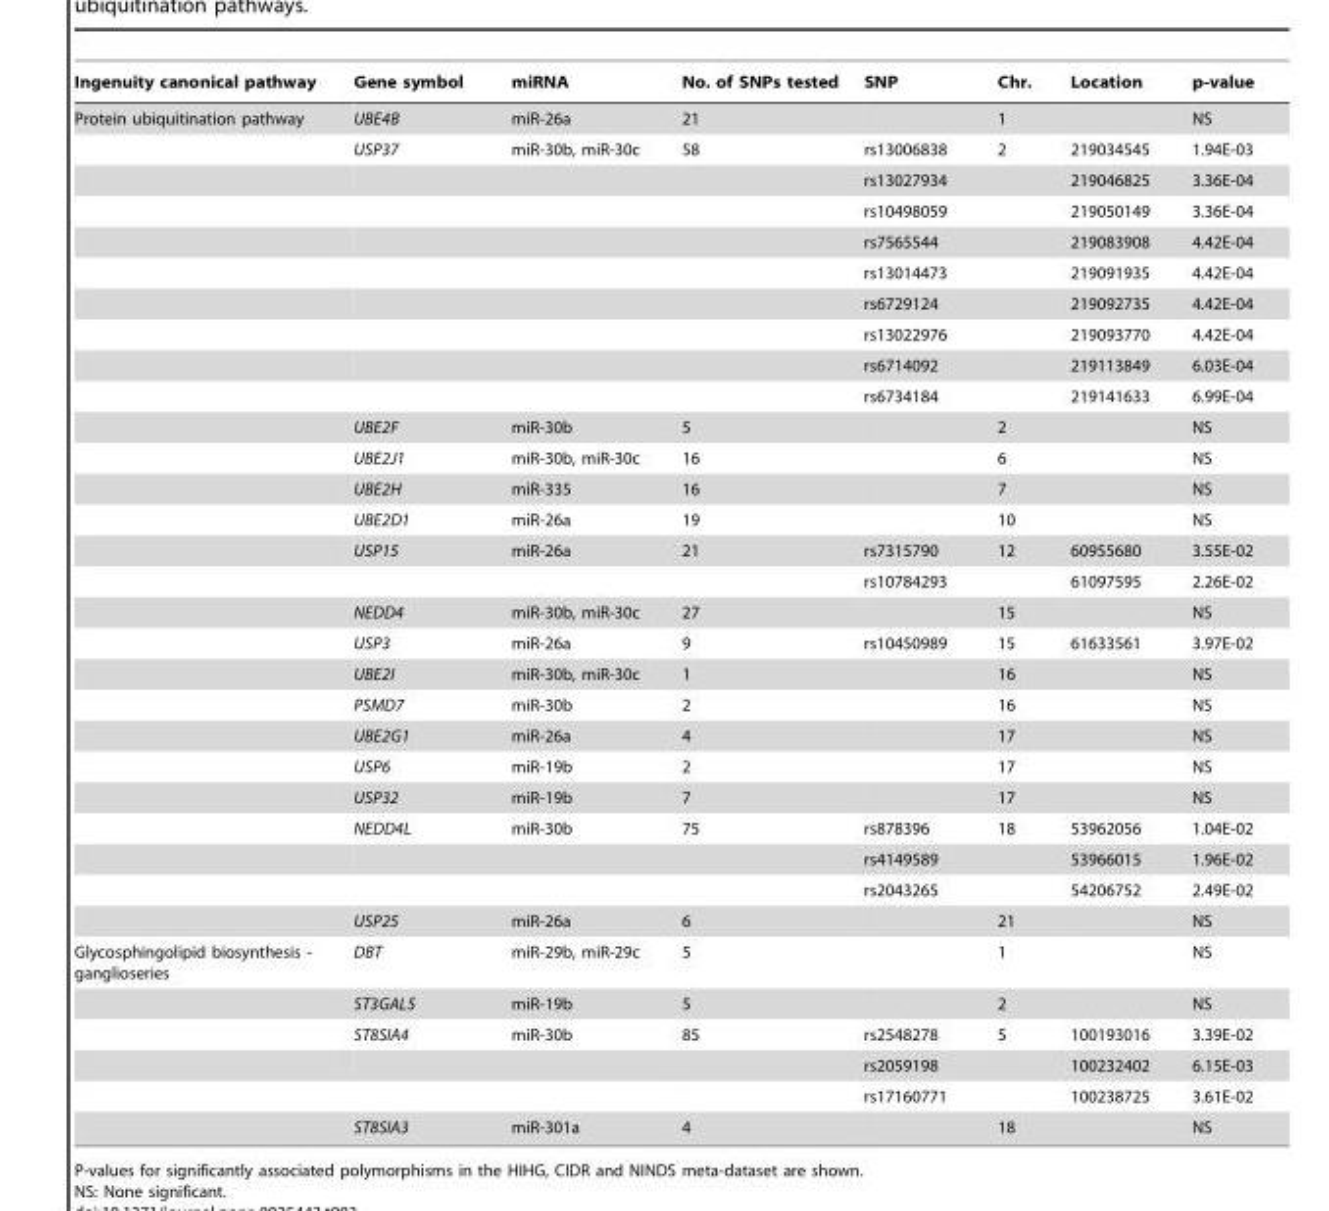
<table><thead><tr><td>Ingenuity canonical pathway</td><td>Gene symbol</td><td>miRNA</td><td>No. of SNPs tested</td><td>SNP</td><td>Chr.</td><td>Location</td><td>p-value</td></tr></thead><tbody><tr><td rowspan="27">Protein ubiquitination pathway</td><td>UBE4B</td><td>miR-26a</td><td>21</td><td></td><td>1</td><td></td><td>NS</td></tr><tr><td>USP37</td><td>miR-30b, miR-30c</td><td>58</td><td>rs13006838</td><td>2</td><td>219034545</td><td>1.94E-03</td></tr><tr><td></td><td></td><td></td><td>rs13027934</td><td></td><td>219046825</td><td>3.36E-04</td></tr><tr><td></td><td></td><td></td><td>rs10498059</td><td></td><td>219050149</td><td>3.36E-04</td></tr><tr><td></td><td></td><td></td><td>rs7565544</td><td></td><td>219083908</td><td>4.42E-04</td></tr><tr><td></td><td></td><td></td><td>rs13014473</td><td></td><td>219091935</td><td>4.42E-04</td></tr><tr><td></td><td></td><td></td><td>rs6729124</td><td></td><td>219092735</td><td>4.42E-04</td></tr><tr><td></td><td></td><td></td><td>rs13022976</td><td></td><td>219093770</td><td>4.42E-04</td></tr><tr><td></td><td></td><td></td><td>rs6714092</td><td></td><td>219113849</td><td>6.03E-04</td></tr><tr><td></td><td></td><td></td><td>rs6734184</td><td></td><td>219141633</td><td>6.99E-04</td></tr><tr><td>UBE2F</td><td>miR-30b</td><td>5</td><td></td><td>2</td><td></td><td>NS</td></tr><tr><td>UBE2J1</td><td>miR-30b, miR-30c</td><td>16</td><td></td><td>6</td><td></td><td>NS</td></tr><tr><td>UBE2H</td><td>miR-335</td><td>16</td><td></td><td>7</td><td></td><td>NS</td></tr><tr><td>UBE2D1</td><td>miR-26a</td><td>19</td><td></td><td>10</td><td></td><td>NS</td></tr><tr><td>USP15</td><td>miR-26a</td><td>21</td><td>rs7315790</td><td>12</td><td>60955680</td><td>3.55E-02</td></tr><tr><td></td><td></td><td></td><td>rs10784293</td><td></td><td>61097595</td><td>2.26E-02</td></tr><tr><td>NEDD4</td><td>miR-30b, miR-30c</td><td>27</td><td></td><td>15</td><td></td><td>NS</td></tr><tr><td>USP3</td><td>miR-26a</td><td>9</td><td>rs10450989</td><td>15</td><td>61633561</td><td>3.97E-02</td></tr><tr><td>UBE2I</td><td>miR-30b, miR-30c</td><td>1</td><td></td><td>16</td><td></td><td>NS</td></tr><tr><td>PSMD7</td><td>miR-30b</td><td>2</td><td></td><td>16</td><td></td><td>NS</td></tr><tr><td>UBE2G1</td><td>miR-26a</td><td>4</td><td></td><td>17</td><td></td><td>NS</td></tr><tr><td>USP6</td><td>miR-19b</td><td>2</td><td></td><td>17</td><td></td><td>NS</td></tr><tr><td>USP32</td><td>miR-19b</td><td>7</td><td></td><td>17</td><td></td><td>NS</td></tr><tr><td>NEDD4L</td><td>miR-30b</td><td>75</td><td>rs878396</td><td>18</td><td>53962056</td><td>1.04E-02</td></tr><tr><td></td><td></td><td></td><td>rs4149589</td><td></td><td>53966015</td><td>1.96E-02</td></tr><tr><td></td><td></td><td></td><td>rs2043265</td><td></td><td>54206752</td><td>2.49E-02</td></tr><tr><td>USP25</td><td>miR-26a</td><td>6</td><td></td><td>21</td><td></td><td>NS</td></tr><tr><td rowspan="6">Glycosphingolipid biosynthesis - ganglioseries</td><td>DBT</td><td>miR-29b, miR-29c</td><td>5</td><td></td><td>1</td><td></td><td>NS</td></tr><tr><td>ST3GAL5</td><td>miR-19b</td><td>5</td><td></td><td>2</td><td></td><td>NS</td></tr><tr><td>ST8SIA4</td><td>miR-30b</td><td>85</td><td>rs2548278</td><td>5</td><td>100193016</td><td>3.39E-02</td></tr><tr><td></td><td></td><td></td><td>rs2059198</td><td></td><td>100232402</td><td>6.15E-03</td></tr><tr><td></td><td></td><td></td><td>rs17160771</td><td></td><td>100238725</td><td>3.61E-02</td></tr><tr><td>ST8SIA3</td><td>miR-301a</td><td>4</td><td></td><td>18</td><td></td><td>NS</td></tr></tbody></table>